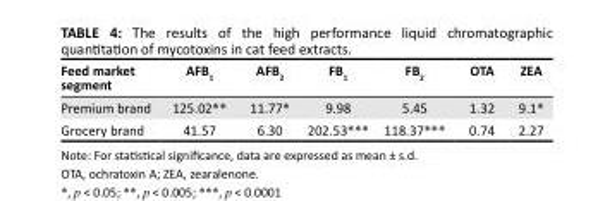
<table><thead><tr><td>Feed market segment</td><td>AFB<sub>1</sub></td><td>AFB<sub>2</sub></td><td>FB<sub>1</sub></td><td>FB<sub>2</sub></td><td>OTA</td><td>ZEA</td></tr></thead><tbody><tr><td>Premium brand</td><td>125.02**</td><td>11.77*</td><td>9.98</td><td>5.45</td><td>1.32</td><td>9.1*</td></tr><tr><td>Grocery brand</td><td>41.57</td><td>6.30</td><td>202.53***</td><td>118.37***</td><td>0.74</td><td>2.27</td></tr></tbody></table>